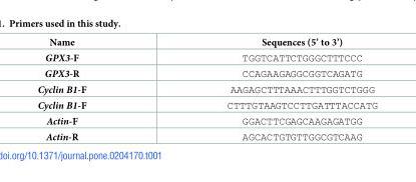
<table><thead><tr><td>Name</td><td>Sequences (5’ to 3’)</td></tr></thead><tbody><tr><td>GPX3-F</td><td>TGGTCATTCTGGGCTTTCCC</td></tr><tr><td>GPX3-R</td><td>CCAGAAGAGGCGGTCAGATG</td></tr><tr><td>Cyclin B1-F</td><td>AAGAGCTTTAAACTTTGGTCTGGG</td></tr><tr><td>Cyclin B1-F</td><td>CTTTGTAAGTCCTTGATTTACCATG</td></tr><tr><td>Actin-F</td><td>GGACTTCGAGCAAGAGATGG</td></tr><tr><td>Actin-R</td><td>AGCACTGTGTTGGCGTCAAG</td></tr></tbody></table>